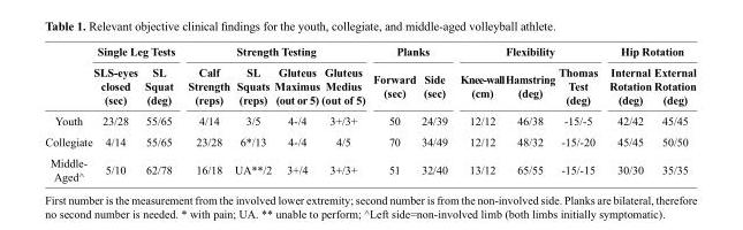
<table><thead><tr><td rowspan="2"></td><td colspan="2">Single Leg Tests</td><td colspan="4">Strength Testing</td><td colspan="2">Planks</td><td colspan="3">Flexibility</td><td colspan="2">Hip Rotation</td></tr><tr><td>SLS-eyes closed (sec)</td><td>SL Squat (deg)</td><td>Calf Strength (reps)</td><td>SL Squats (reps)</td><td>Gluteus Maximus (out or 5)</td><td>Gluteus Medius (out of 5)</td><td>Forward (sec)</td><td>Side (sec)</td><td>Knee-wall (cm)</td><td>Hamstring (deg)</td><td>Thomas Test (deg)</td><td>Internal Rotation (deg)</td><td>External Rotation (deg)</td></tr></thead><tbody><tr><td>Youth</td><td>23/28</td><td>55/65</td><td>4/14</td><td>3/5</td><td>4-/4</td><td>3+/3+</td><td>50</td><td>24/39</td><td>12/12</td><td>46/38</td><td>-15/-5</td><td>42/42</td><td>45/45</td></tr><tr><td>Collegiate</td><td>4/14</td><td>55/65</td><td>23/28</td><td>6*/13</td><td>4-/4</td><td>4/5</td><td>70</td><td>34/49</td><td>12/12</td><td>48/32</td><td>-15/-20</td><td>45/45</td><td>50/50</td></tr><tr><td>Middle- Aged^</td><td>5/10</td><td>62/78</td><td>16/18</td><td>UA**/2</td><td>3+/4</td><td>3+/3+</td><td>51</td><td>32/40</td><td>13/12</td><td>65/55</td><td>-15/-15</td><td>30/30</td><td>35/35</td></tr></tbody></table>